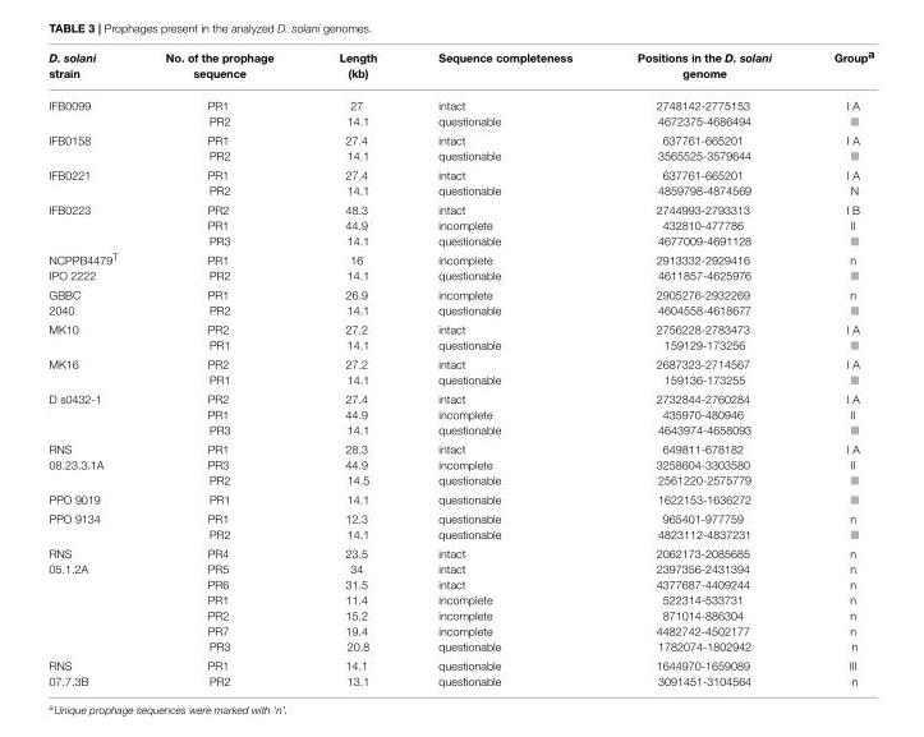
<table><thead><tr><td>D. solani strain</td><td>No. of the prophage sequence</td><td>Length (kb)</td><td>Sequence completeness</td><td>Positions in the D. solani genome</td><td>Group<sup>a</sup></td></tr></thead><tbody><tr><td>IFB0099</td><td>PR1 PR2</td><td>27 14.1</td><td>intact questionable</td><td>2748142-2775153 4672375-4686494</td><td>I A III</td></tr><tr><td>IFB0158</td><td>PR1 PR2</td><td>27.4 14.1</td><td>intact questionable</td><td>637761-665201 3565525-3579644</td><td>I A III</td></tr><tr><td>IFB0221</td><td>PR1 PR2</td><td>27.4 14.1</td><td>intact questionable</td><td>637761-665201 4859798-4874569</td><td>I A N</td></tr><tr><td>IFB0223</td><td>PR2 PR1 PR3</td><td>48.3 44.9 14.1</td><td>intact incomplete questionable</td><td>2744993-2793313 432810-477786 4677009-4691128</td><td>I B II III</td></tr><tr><td>NCPPB4479<sup>T</sup> IPO 2222</td><td>PR1 PR2</td><td>16 14.1</td><td>incomplete questionable</td><td>2913332-2929416 4611857-4625976</td><td>n III</td></tr><tr><td>GBBC 2040</td><td>PR1 PR2</td><td>26.9 14.1</td><td>incomplete questionable</td><td>2905276-2932269 4604558-4618677</td><td>n III</td></tr><tr><td>MK10</td><td>PR2 PR1</td><td>27.2 14.1</td><td>intact questionable</td><td>2756228-2783473 159129-173256</td><td>I A III</td></tr><tr><td>MK16</td><td>PR2 PR1</td><td>27.2 14.1</td><td>intact questionable</td><td>2687323-2714567 159136-173255</td><td>I A III</td></tr><tr><td>D s0432-1</td><td>PR2 PR1 PR3</td><td>27.4 44.9 14.1</td><td>intact incomplete questionable</td><td>2732844-2760284 435970-480946 4643974-4658093</td><td>I A II III</td></tr><tr><td>RNS 08.23.3.1A</td><td>PR1 PR3 PR2</td><td>28.3 44.9 14.5</td><td>intact incomplete questionable</td><td>649811-678182 3258604-3303580 2561220-2575779</td><td>I A II III</td></tr><tr><td>PPO 9019</td><td>PR1</td><td>14.1</td><td>questionable</td><td>1622153-1636272</td><td>III</td></tr><tr><td>PPO 9134</td><td>PR1 PR2</td><td>12.3 14.1</td><td>questionable questionable</td><td>965401-977759 4823112-4837231</td><td>n III</td></tr><tr><td>RNS 05.1.2A</td><td>PR4 PR5 PR6 PR1 PR2 PR7 PR3</td><td>23.5 34 31.5 11.4 15.2 19.4 20.8</td><td>intact intact intact incomplete incomplete incomplete questionable</td><td>2062173-2085685 2397356-2431394 4377687-4409244 522314-533731 871014-886304 4482742-4502177 1782074-1802942</td><td>n n n n n n n</td></tr><tr><td>RNS 07.7.3B</td><td>PR1 PR2</td><td>14.1 13.1</td><td>questionable questionable</td><td>1644970-1659089 3091451-3104564</td><td>III n</td></tr></tbody></table>